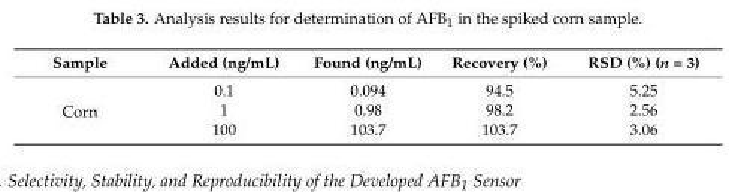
<table><thead><tr><td>Sample</td><td>Added (ng/mL)</td><td>Found (ng/mL)</td><td>Recovery (%)</td><td>RSD (%) (n = 3)</td></tr></thead><tbody><tr><td rowspan="3">Corn</td><td>0.1</td><td>0.094</td><td>94.5</td><td>5.25</td></tr><tr><td>1</td><td>0.98</td><td>98.2</td><td>2.56</td></tr><tr><td>100</td><td>103.7</td><td>103.7</td><td>3.06</td></tr></tbody></table>